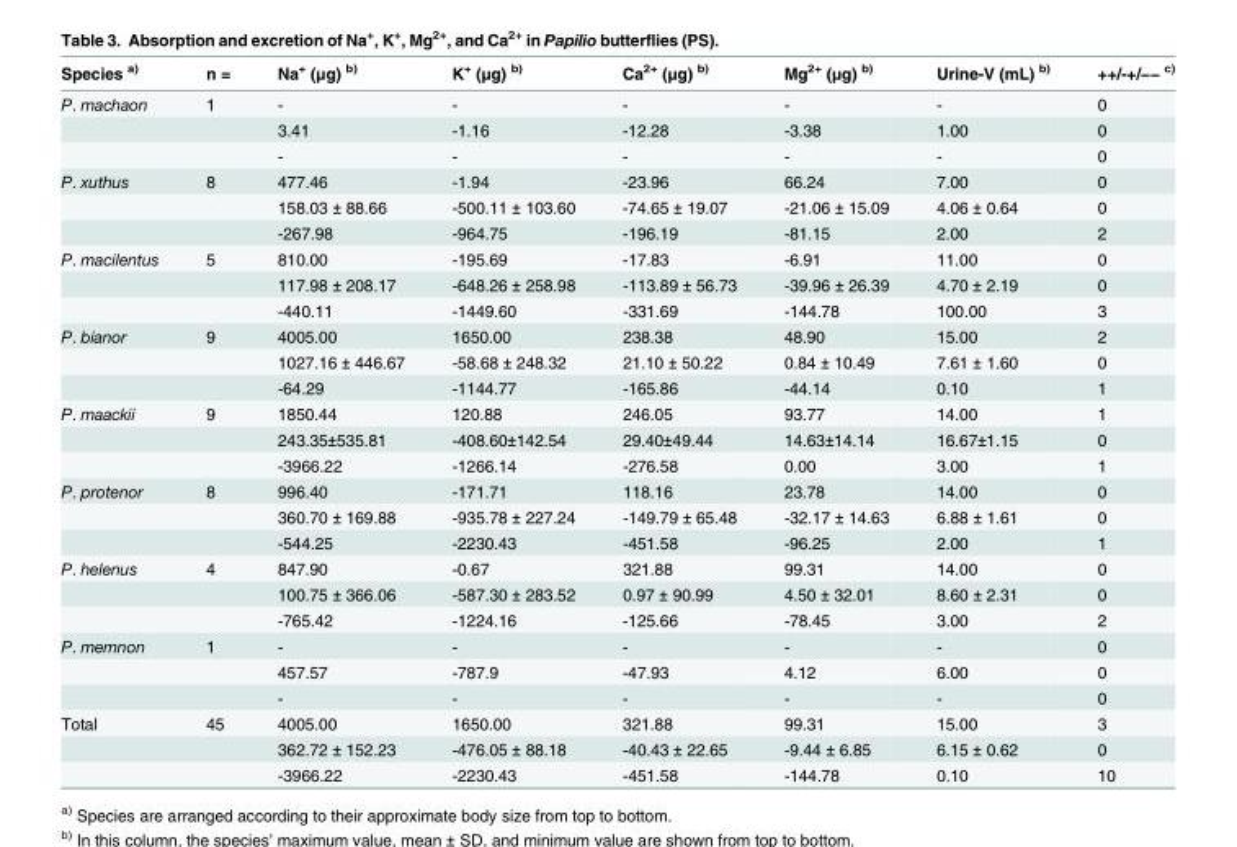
<table><thead><tr><td>Species <sup>a)</sup></td><td>n =</td><td>Na<sup>+</sup> (μg) <sup>b)</sup></td><td>K<sup>+</sup> (μg) <sup>b)</sup></td><td>Ca<sup>2+</sup> (μg) <sup>b)</sup></td><td>Mg<sup>2+</sup> (μg) <sup>b)</sup></td><td>Urine-V (mL) <sup>b)</sup></td><td>++/-+/−− <sup>c)</sup></td></tr></thead><tbody><tr><td rowspan="3">P. machaon</td><td>1</td><td>-</td><td>-</td><td>-</td><td>-</td><td>-</td><td>0</td></tr><tr><td></td><td>3.41</td><td>-1.16</td><td>-12.28</td><td>-3.38</td><td>1.00</td><td>0</td></tr><tr><td></td><td>-</td><td>-</td><td>-</td><td>-</td><td>-</td><td>0</td></tr><tr><td rowspan="3">P. xuthus</td><td>8</td><td>477.46</td><td>-1.94</td><td>-23.96</td><td>66.24</td><td>7.00</td><td>0</td></tr><tr><td></td><td>158.03 ± 88.66</td><td>-500.11 ± 103.60</td><td>-74.65 ± 19.07</td><td>-21.06 ± 15.09</td><td>4.06 ± 0.64</td><td>0</td></tr><tr><td></td><td>-267.98</td><td>-964.75</td><td>-196.19</td><td>-81.15</td><td>2.00</td><td>2</td></tr><tr><td rowspan="3">P. macilentus</td><td>5</td><td>810.00</td><td>-195.69</td><td>-17.83</td><td>-6.91</td><td>11.00</td><td>0</td></tr><tr><td></td><td>117.98 ± 208.17</td><td>-648.26 ± 258.98</td><td>-113.89 ± 56.73</td><td>-39.96 ± 26.39</td><td>4.70 ± 2.19</td><td>0</td></tr><tr><td></td><td>-440.11</td><td>-1449.60</td><td>-331.69</td><td>-144.78</td><td>100.00</td><td>3</td></tr><tr><td rowspan="3">P. bianor</td><td>9</td><td>4005.00</td><td>1650.00</td><td>238.38</td><td>48.90</td><td>15.00</td><td>2</td></tr><tr><td></td><td>1027.16 ± 446.67</td><td>-58.68 ± 248.32</td><td>21.10 ± 50.22</td><td>0.84 ± 10.49</td><td>7.61 ± 1.60</td><td>0</td></tr><tr><td></td><td>-64.29</td><td>-1144.77</td><td>-165.86</td><td>-44.14</td><td>0.10</td><td>1</td></tr><tr><td rowspan="3">P. maackii</td><td>9</td><td>1850.44</td><td>120.88</td><td>246.05</td><td>93.77</td><td>14.00</td><td>1</td></tr><tr><td></td><td>243.35±535.81</td><td>-408.60±142.54</td><td>29.40±49.44</td><td>14.63±14.14</td><td>16.67±1.15</td><td>0</td></tr><tr><td></td><td>-3966.22</td><td>-1266.14</td><td>-276.58</td><td>0.00</td><td>3.00</td><td>1</td></tr><tr><td rowspan="3">P. protenor</td><td>8</td><td>996.40</td><td>-171.71</td><td>118.16</td><td>23.78</td><td>14.00</td><td>0</td></tr><tr><td></td><td>360.70 ± 169.88</td><td>-935.78 ± 227.24</td><td>-149.79 ± 65.48</td><td>-32.17 ± 14.63</td><td>6.88 ± 1.61</td><td>0</td></tr><tr><td></td><td>-544.25</td><td>-2230.43</td><td>-451.58</td><td>-96.25</td><td>2.00</td><td>1</td></tr><tr><td rowspan="3">P. helenus</td><td>4</td><td>847.90</td><td>-0.67</td><td>321.88</td><td>99.31</td><td>14.00</td><td>0</td></tr><tr><td></td><td>100.75 ± 366.06</td><td>-587.30 ± 283.52</td><td>0.97 ± 90.99</td><td>4.50 ± 32.01</td><td>8.60 ± 2.31</td><td>0</td></tr><tr><td></td><td>-765.42</td><td>-1224.16</td><td>-125.66</td><td>-78.45</td><td>3.00</td><td>2</td></tr><tr><td rowspan="3">P. memnon</td><td>1</td><td>-</td><td>-</td><td>-</td><td>-</td><td>-</td><td>0</td></tr><tr><td></td><td>457.57</td><td>-787.9</td><td>-47.93</td><td>4.12</td><td>6.00</td><td>0</td></tr><tr><td></td><td>-</td><td>-</td><td>-</td><td>-</td><td>-</td><td>0</td></tr><tr><td rowspan="3">Total</td><td>45</td><td>4005.00</td><td>1650.00</td><td>321.88</td><td>99.31</td><td>15.00</td><td>3</td></tr><tr><td></td><td>362.72 ± 152.23</td><td>-476.05 ± 88.18</td><td>-40.43 ± 22.65</td><td>-9.44 ± 6.85</td><td>6.15 ± 0.62</td><td>0</td></tr><tr><td></td><td>-3966.22</td><td>-2230.43</td><td>-451.58</td><td>-144.78</td><td>0.10</td><td>10</td></tr></tbody></table>